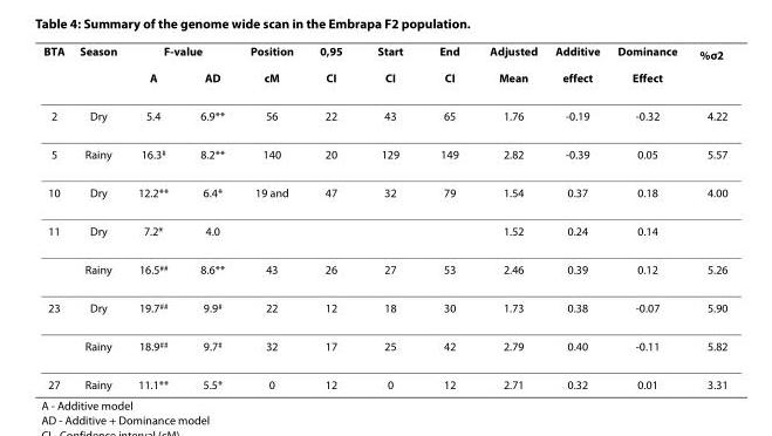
<table><thead><tr><td rowspan="2">BTA</td><td rowspan="2">Season</td><td colspan="2">F-value</td><td rowspan="2">Position cM</td><td rowspan="2">0,95 CI</td><td rowspan="2">Start CI</td><td rowspan="2">End CI</td><td rowspan="2">Adjusted Mean</td><td rowspan="2">Additive effect</td><td rowspan="2">Dominance Effect</td><td rowspan="2">%σ<sup>2</sup></td></tr><tr><td>A</td><td>AD</td></tr></thead><tbody><tr><td>2</td><td>Dry</td><td>5.4</td><td>6.9**</td><td>56</td><td>22</td><td>43</td><td>65</td><td>1.76</td><td>-0.19</td><td>-0.32</td><td>4.22</td></tr><tr><td>5</td><td>Rainy</td><td>16.3<sup>#</sup></td><td>8.2**</td><td>140</td><td>20</td><td>129</td><td>149</td><td>2.82</td><td>-0.39</td><td>0.05</td><td>5.57</td></tr><tr><td>10</td><td>Dry</td><td>12.2**</td><td>6.4*</td><td>19 and</td><td>47</td><td>32</td><td>79</td><td>1.54</td><td>0.37</td><td>0.18</td><td>4.00</td></tr><tr><td rowspan="2">11</td><td>Dry</td><td>7.2*</td><td>4.0</td><td></td><td></td><td></td><td></td><td>1.52</td><td>0.24</td><td>0.14</td><td></td></tr><tr><td>Rainy</td><td>16.5<sup>##</sup></td><td>8.6**</td><td>43</td><td>26</td><td>27</td><td>53</td><td>2.46</td><td>0.39</td><td>0.12</td><td>5.26</td></tr><tr><td rowspan="2">23</td><td>Dry</td><td>19.7<sup>##</sup></td><td>9.9<sup>#</sup></td><td>22</td><td>12</td><td>18</td><td>30</td><td>1.73</td><td>0.38</td><td>-0.07</td><td>5.90</td></tr><tr><td>Rainy</td><td>18.9<sup>##</sup></td><td>9.7<sup>#</sup></td><td>32</td><td>17</td><td>25</td><td>42</td><td>2.79</td><td>0.40</td><td>-0.11</td><td>5.82</td></tr><tr><td>27</td><td>Rainy</td><td>11.1**</td><td>5.5*</td><td>0</td><td>12</td><td>0</td><td>12</td><td>2.71</td><td>0.32</td><td>0.01</td><td>3.31</td></tr></tbody></table>